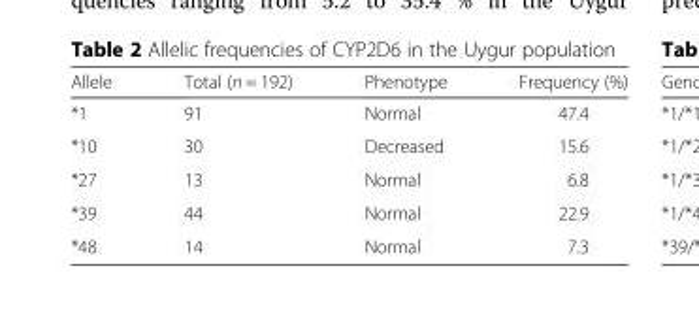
<table><thead><tr><td>Allele</td><td>Total (n = 192)</td><td>Phenotype</td><td>Frequency (%)</td></tr></thead><tbody><tr><td>*1</td><td>91</td><td>Normal</td><td>47.4</td></tr><tr><td>*10</td><td>30</td><td>Decreased</td><td>15.6</td></tr><tr><td>*27</td><td>13</td><td>Normal</td><td>6.8</td></tr><tr><td>*39</td><td>44</td><td>Normal</td><td>22.9</td></tr><tr><td>*48</td><td>14</td><td>Normal</td><td>7.3</td></tr></tbody></table>